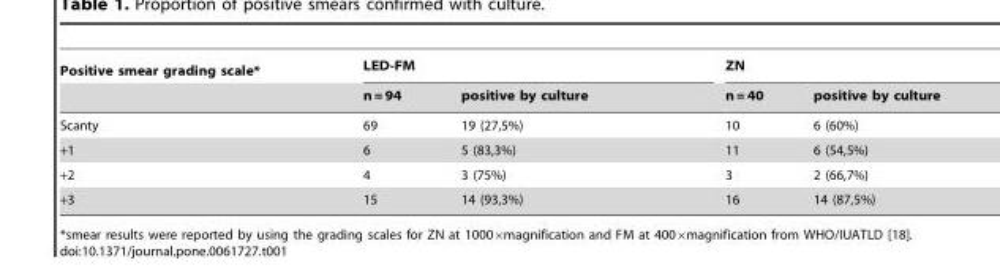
<table><thead><tr><td rowspan="2">Positive smear grading scale*</td><td colspan="2">LED-FM</td><td colspan="2">ZN</td></tr><tr><td>n = 94</td><td>positive by culture</td><td>n = 40</td><td>positive by culture</td></tr></thead><tbody><tr><td>Scanty</td><td>69</td><td>19 (27,5%)</td><td>10</td><td>6 (60%)</td></tr><tr><td>+1</td><td>6</td><td>5 (83,3%)</td><td>11</td><td>6 (54,5%)</td></tr><tr><td>+2</td><td>4</td><td>3 (75%)</td><td>3</td><td>2 (66,7%)</td></tr><tr><td>+3</td><td>15</td><td>14 (93,3%)</td><td>16</td><td>14 (87,5%)</td></tr></tbody></table>